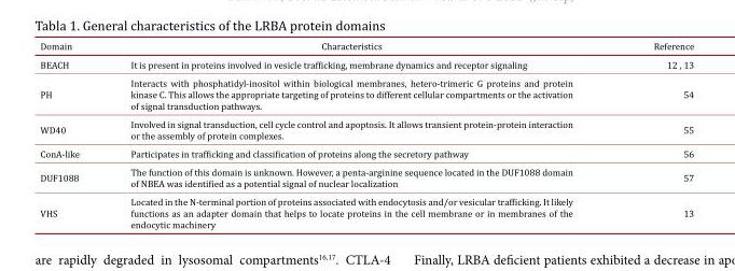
<table><thead><tr><td>Domain</td><td>Characteristics</td><td>Reference</td></tr></thead><tbody><tr><td>BEACH</td><td>It is present in proteins involved in vesicle trafficking, membrane dynamics and receptor signaling</td><td><sup>12 , 13</sup></td></tr><tr><td>PH</td><td>Interacts with phosphatidyl-inositol within biological membranes, hetero-trimeric G proteins and protein kinase C. This allows the appropriate targeting of proteins to different cellular compartments or the activation of signal transduction pathways.</td><td><sup>54</sup></td></tr><tr><td>WD40</td><td>Involved in signal transduction, cell cycle control and apoptosis. It allows transient protein-protein interaction or the assembly of protein complexes.</td><td><sup>55</sup></td></tr><tr><td>ConA-like</td><td>Participates in trafficking and classification of proteins along the secretory pathway</td><td><sup>56</sup></td></tr><tr><td>DUF1088</td><td>The function of this domain is unknown. However, a penta-arginine sequence located in the DUF1088 domain of NBEA was identified as a potential signal of nuclear localization</td><td><sup>57</sup></td></tr><tr><td>VHS</td><td>Located in the N-terminal portion of proteins associated with endocytosis and/or vesicular trafficking. It likely functions as an adapter domain that helps to locate proteins in the cell membrane or in membranes of the endocytic machinery</td><td><sup>13</sup></td></tr></tbody></table>